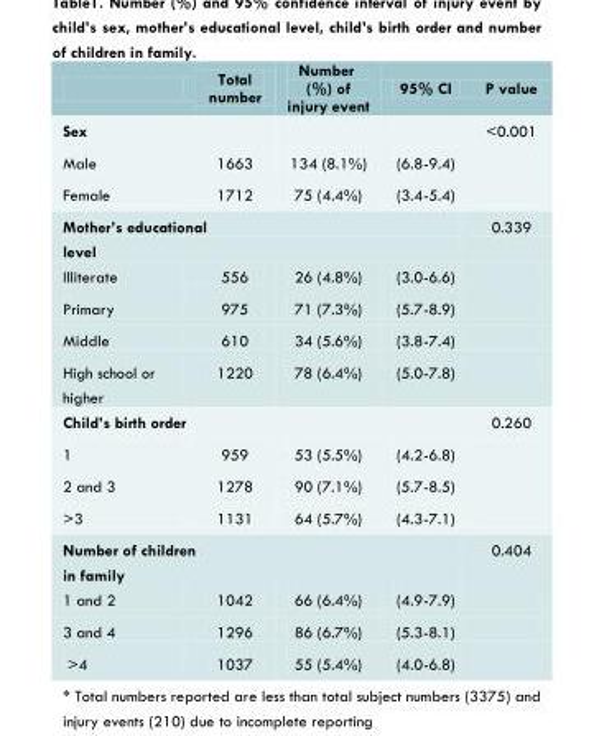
<table><thead><tr><td></td><td>Total number</td><td>Number (%) of injury event</td><td>95% CI</td><td>P value</td></tr></thead><tbody><tr><td>Sex</td><td></td><td></td><td></td><td>&lt;0.001</td></tr><tr><td>Male</td><td>1663</td><td>134 (8.1%)</td><td>(6.8-9.4)</td><td></td></tr><tr><td>Female</td><td>1712</td><td>75 (4.4%)</td><td>(3.4-5.4)</td><td></td></tr><tr><td>Mother’s educational level</td><td></td><td></td><td></td><td>0.339</td></tr><tr><td>Illiterate</td><td>556</td><td>26 (4.8%)</td><td>(3.0-6.6)</td><td></td></tr><tr><td>Primary</td><td>975</td><td>71 (7.3%)</td><td>(5.7-8.9)</td><td></td></tr><tr><td>Middle</td><td>610</td><td>34 (5.6%)</td><td>(3.8-7.4)</td><td></td></tr><tr><td>High school or higher</td><td>1220</td><td>78 (6.4%)</td><td>(5.0-7.8)</td><td></td></tr><tr><td>Child’s birth order</td><td></td><td></td><td></td><td>0.260</td></tr><tr><td>1</td><td>959</td><td>53 (5.5%)</td><td>(4.2-6.8)</td><td></td></tr><tr><td>2 and 3</td><td>1278</td><td>90 (7.1%)</td><td>(5.7-8.5)</td><td></td></tr><tr><td>&gt;3</td><td>1131</td><td>64 (5.7%)</td><td>(4.3-7.1)</td><td></td></tr><tr><td>Number of children in family</td><td></td><td></td><td></td><td>0.404</td></tr><tr><td>1 and 2</td><td>1042</td><td>66 (6.4%)</td><td>(4.9-7.9)</td><td></td></tr><tr><td>3 and 4</td><td>1296</td><td>86 (6.7%)</td><td>(5.3-8.1)</td><td></td></tr><tr><td>&gt;4</td><td>1037</td><td>55 (5.4%)</td><td>(4.0-6.8)</td><td></td></tr></tbody></table>